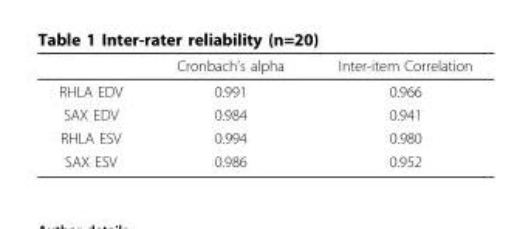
<table><thead><tr><td></td><td>Cronbach’s alpha</td><td>Inter-item Correlation</td></tr></thead><tbody><tr><td>RHLA EDV</td><td>0.991</td><td>0.966</td></tr><tr><td>SAX EDV</td><td>0.984</td><td>0.941</td></tr><tr><td>RHLA ESV</td><td>0.994</td><td>0.980</td></tr><tr><td>SAX ESV</td><td>0.986</td><td>0.952</td></tr></tbody></table>